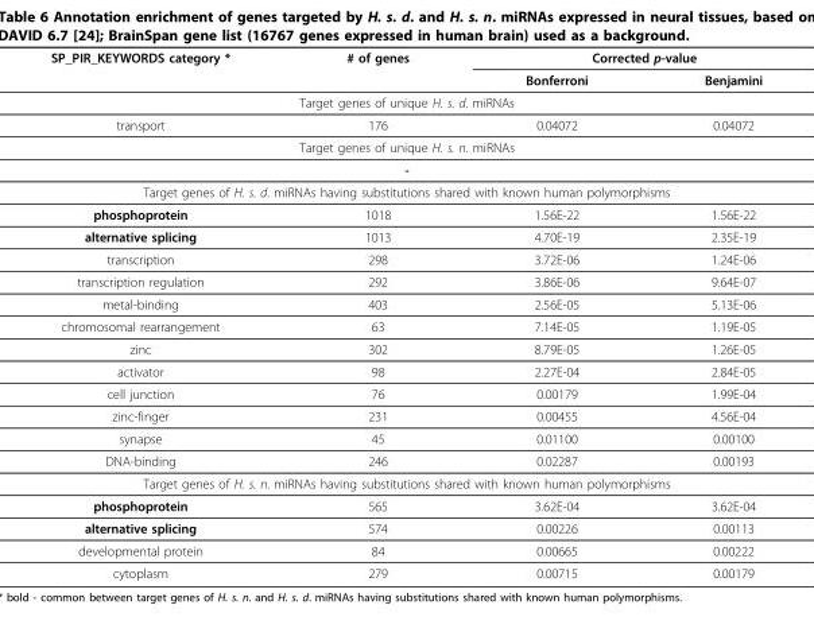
<table><thead><tr><td rowspan="2">SP_PIR_KEYWORDS category *</td><td rowspan="2"># of genes</td><td colspan="2">Corrected p-value</td></tr><tr><td>Bonferroni</td><td>Benjamini</td></tr></thead><tbody><tr><td colspan="4">Target genes of unique H. s. d. miRNAs</td></tr><tr><td>transport</td><td>176</td><td>0.04072</td><td>0.04072</td></tr><tr><td colspan="4">Target genes of unique H. s. n. miRNAs</td></tr><tr><td colspan="4">-</td></tr><tr><td colspan="4">Target genes of H. s. d. miRNAs having substitutions shared with known human polymorphisms</td></tr><tr><td>phosphoprotein</td><td>1018</td><td>1.56E-22</td><td>1.56E-22</td></tr><tr><td>alternative splicing</td><td>1013</td><td>4.70E-19</td><td>2.35E-19</td></tr><tr><td>transcription</td><td>298</td><td>3.72E-06</td><td>1.24E-06</td></tr><tr><td>transcription regulation</td><td>292</td><td>3.86E-06</td><td>9.64E-07</td></tr><tr><td>metal-binding</td><td>403</td><td>2.56E-05</td><td>5.13E-06</td></tr><tr><td>chromosomal rearrangement</td><td>63</td><td>7.14E-05</td><td>1.19E-05</td></tr><tr><td>zinc</td><td>302</td><td>8.79E-05</td><td>1.26E-05</td></tr><tr><td>activator</td><td>98</td><td>2.27E-04</td><td>2.84E-05</td></tr><tr><td>cell junction</td><td>76</td><td>0.00179</td><td>1.99E-04</td></tr><tr><td>zinc-finger</td><td>231</td><td>0.00455</td><td>4.56E-04</td></tr><tr><td>synapse</td><td>45</td><td>0.01100</td><td>0.00100</td></tr><tr><td>DNA-binding</td><td>246</td><td>0.02287</td><td>0.00193</td></tr><tr><td colspan="4">Target genes of H. s. n. miRNAs having substitutions shared with known human polymorphisms</td></tr><tr><td>phosphoprotein</td><td>565</td><td>3.62E-04</td><td>3.62E-04</td></tr><tr><td>alternative splicing</td><td>574</td><td>0.00226</td><td>0.00113</td></tr><tr><td>developmental protein</td><td>84</td><td>0.00665</td><td>0.00222</td></tr><tr><td>cytoplasm</td><td>279</td><td>0.00715</td><td>0.00179</td></tr></tbody></table>